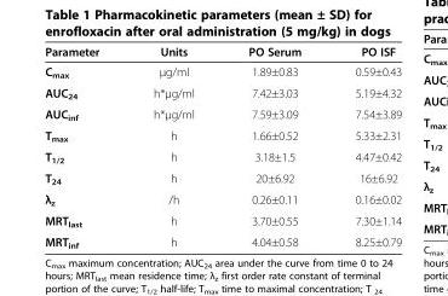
<table><thead><tr><td>Parameter</td><td>Units</td><td>PO Serum</td><td>PO ISF</td></tr></thead><tbody><tr><td>C<sub>max</sub></td><td>μg/ml</td><td>1.89±0.83</td><td>0.59±0.43</td></tr><tr><td>AUC<sub>24</sub></td><td>h*μg/ml</td><td>7.42±3.03</td><td>5.19±4.32</td></tr><tr><td>AUC<sub>inf</sub></td><td>h*μg/ml</td><td>7.59±3.09</td><td>7.54±3.89</td></tr><tr><td>T<sub>max</sub></td><td>h</td><td>1.66±0.52</td><td>5.33±2.31</td></tr><tr><td>T<sub>1/2</sub></td><td>h</td><td>3.18±1.5</td><td>4.47±0.42</td></tr><tr><td>T<sub>24</sub></td><td>h</td><td>20±6.92</td><td>16±6.92</td></tr><tr><td>λ<sub>z</sub></td><td>/h</td><td>0.26±0.11</td><td>0.16±0.02</td></tr><tr><td>MRT<sub>last</sub></td><td>h</td><td>3.70±0.55</td><td>7.30±1.14</td></tr><tr><td>MRT<sub>inf</sub></td><td>h</td><td>4.04±0.58</td><td>8.25±0.79</td></tr></tbody></table>